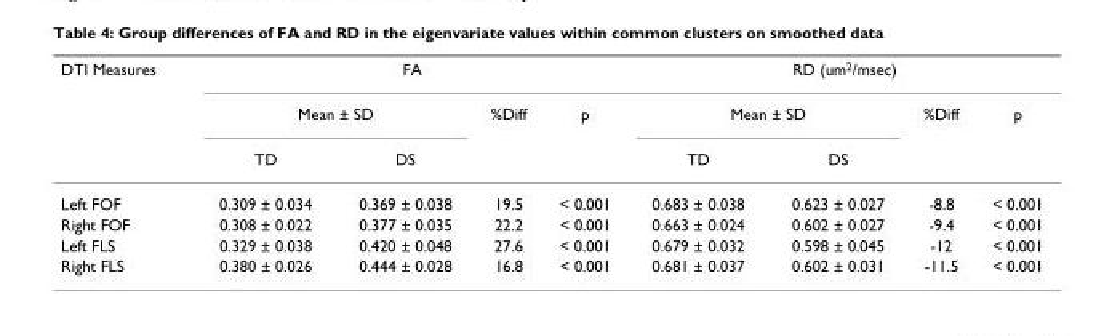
<table><thead><tr><td rowspan="3">DTI Measures</td><td colspan="4">FA</td><td colspan="4">RD (um<sup>2</sup>/msec)</td></tr><tr><td colspan="2">Mean ± SD</td><td rowspan="2">%Diff</td><td rowspan="2">p</td><td colspan="2">Mean ± SD</td><td rowspan="2">%Diff</td><td rowspan="2">p</td></tr><tr><td>TD</td><td>DS</td><td>TD</td><td>DS</td></tr></thead><tbody><tr><td>Left FOF</td><td>0.309 ± 0.034</td><td>0.369 ± 0.038</td><td>19.5</td><td>&lt; 0.001</td><td>0.683 ± 0.038</td><td>0.623 ± 0.027</td><td>-8.8</td><td>&lt; 0.001</td></tr><tr><td>Right FOF</td><td>0.308 ± 0.022</td><td>0.377 ± 0.035</td><td>22.2</td><td>&lt; 0.001</td><td>0.663 ± 0.024</td><td>0.602 ± 0.027</td><td>-9.4</td><td>&lt; 0.001</td></tr><tr><td>Left FLS</td><td>0.329 ± 0.038</td><td>0.420 ± 0.048</td><td>27.6</td><td>&lt; 0.001</td><td>0.679 ± 0.032</td><td>0.598 ± 0.045</td><td>-12</td><td>&lt; 0.001</td></tr><tr><td>Right FLS</td><td>0.380 ± 0.026</td><td>0.444 ± 0.028</td><td>16.8</td><td>&lt; 0.001</td><td>0.681 ± 0.037</td><td>0.602 ± 0.031</td><td>-11.5</td><td>&lt; 0.001</td></tr></tbody></table>